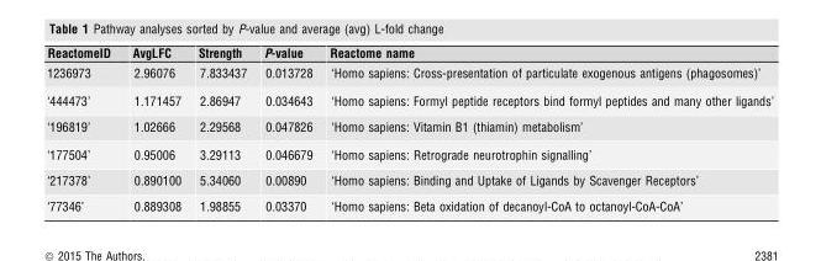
<table><thead><tr><td>ReactomeID</td><td>AvgLFC</td><td>Strength</td><td>P-value</td><td>Reactome name</td></tr></thead><tbody><tr><td>1236973</td><td>2.96076</td><td>7.833437</td><td>0.013728</td><td>‘Homo sapiens: Cross-presentation of particulate exogenous antigens (phagosomes)’</td></tr><tr><td>‘444473’</td><td>1.171457</td><td>2.86947</td><td>0.034643</td><td>‘Homo sapiens: Formyl peptide receptors bind formyl peptides and many other ligands’</td></tr><tr><td>‘196819’</td><td>1.02666</td><td>2.29568</td><td>0.047826</td><td>‘Homo sapiens: Vitamin B1 (thiamin) metabolism’</td></tr><tr><td>‘177504’</td><td>0.95006</td><td>3.29113</td><td>0.046679</td><td>‘Homo sapiens: Retrograde neurotrophin signalling’</td></tr><tr><td>‘217378’</td><td>0.890100</td><td>5.34060</td><td>0.00890</td><td>‘Homo sapiens: Binding and Uptake of Ligands by Scavenger Receptors’</td></tr><tr><td>‘77346’</td><td>0.889308</td><td>1.98855</td><td>0.03370</td><td>‘Homo sapiens: Beta oxidation of decanoyl-CoA to octanoyl-CoA-CoA’</td></tr></tbody></table>